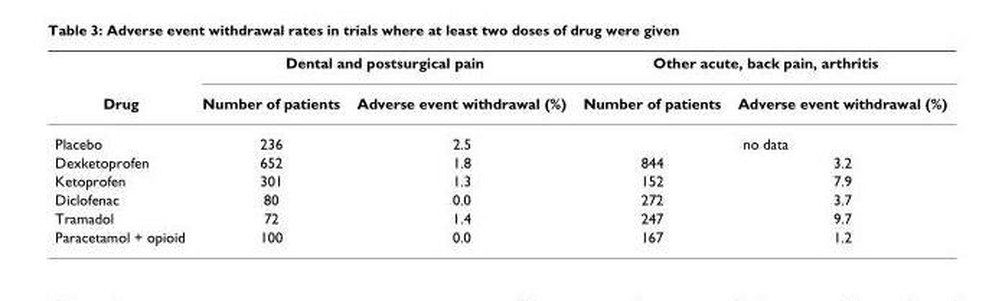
<table><thead><tr><td rowspan="2">Drug</td><td colspan="2">Dental and postsurgical pain</td><td colspan="2">Other acute, back pain, arthritis</td></tr><tr><td>Number of patients</td><td>Adverse event withdrawal (%)</td><td>Number of patients</td><td>Adverse event withdrawal (%)</td></tr></thead><tbody><tr><td>Placebo</td><td>236</td><td>2.5</td><td colspan="2">no data</td></tr><tr><td>Dexketoprofen</td><td>652</td><td>1.8</td><td>844</td><td>3.2</td></tr><tr><td>Ketoprofen</td><td>301</td><td>1.3</td><td>152</td><td>7.9</td></tr><tr><td>Diclofenac</td><td>80</td><td>0.0</td><td>272</td><td>3.7</td></tr><tr><td>Tramadol</td><td>72</td><td>1.4</td><td>247</td><td>9.7</td></tr><tr><td>Paracetamol + opioid</td><td>100</td><td>0.0</td><td>167</td><td>1.2</td></tr></tbody></table>